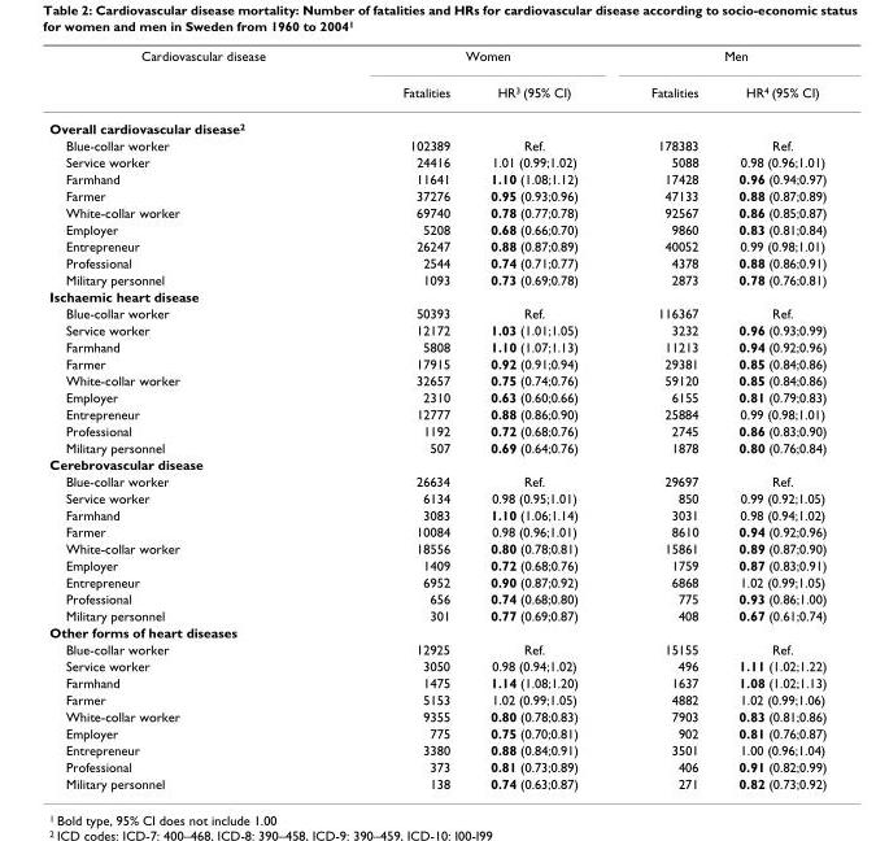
<table><thead><tr><td rowspan="2">Cardiovascular disease</td><td colspan="2">Women</td><td colspan="2">Men</td></tr><tr><td>Fatalities</td><td>HR<sup>3</sup> (95% CI)</td><td>Fatalities</td><td>HR<sup>4</sup> (95% CI)</td></tr></thead><tbody><tr><td colspan="5">Overall cardiovascular disease<sup>2</sup></td></tr><tr><td>Blue-collar worker</td><td>102389</td><td>Ref.</td><td>178383</td><td>Ref.</td></tr><tr><td>Service worker</td><td>24416</td><td>1.01 (0.99;1.02)</td><td>5088</td><td>0.98 (0.96;1.01)</td></tr><tr><td>Farmhand</td><td>11641</td><td>1.10 (1.08;1.12)</td><td>17428</td><td>0.96 (0.94;0.97)</td></tr><tr><td>Farmer</td><td>37276</td><td>0.95 (0.93;0.96)</td><td>47133</td><td>0.88 (0.87;0.89)</td></tr><tr><td>White-collar worker</td><td>69740</td><td>0.78 (0.77;0.78)</td><td>92567</td><td>0.86 (0.85;0.87)</td></tr><tr><td>Employer</td><td>5208</td><td>0.68 (0.66;0.70)</td><td>9860</td><td>0.83 (0.81;0.84)</td></tr><tr><td>Entrepreneur</td><td>26247</td><td>0.88 (0.87;0.89)</td><td>40052</td><td>0.99 (0.98;1.01)</td></tr><tr><td>Professional</td><td>2544</td><td>0.74 (0.71;0.77)</td><td>4378</td><td>0.88 (0.86;0.91)</td></tr><tr><td>Military personnel</td><td>1093</td><td>0.73 (0.69;0.78)</td><td>2873</td><td>0.78 (0.76;0.81)</td></tr><tr><td colspan="5">Ischaemic heart disease</td></tr><tr><td>Blue-collar worker</td><td>50393</td><td>Ref.</td><td>116367</td><td>Ref.</td></tr><tr><td>Service worker</td><td>12172</td><td>1.03 (1.01;1.05)</td><td>3232</td><td>0.96 (0.93;0.99)</td></tr><tr><td>Farmhand</td><td>5808</td><td>1.10 (1.07;1.13)</td><td>11213</td><td>0.94 (0.92;0.96)</td></tr><tr><td>Farmer</td><td>17915</td><td>0.92 (0.91;0.94)</td><td>29381</td><td>0.85 (0.84;0.86)</td></tr><tr><td>White-collar worker</td><td>32657</td><td>0.75 (0.74;0.76)</td><td>59120</td><td>0.85 (0.84;0.86)</td></tr><tr><td>Employer</td><td>2310</td><td>0.63 (0.60;0.66)</td><td>6155</td><td>0.81 (0.79;0.83)</td></tr><tr><td>Entrepreneur</td><td>12777</td><td>0.88 (0.86;0.90)</td><td>25884</td><td>0.99 (0.98;1.01)</td></tr><tr><td>Professional</td><td>1192</td><td>0.72 (0.68;0.76)</td><td>2745</td><td>0.86 (0.83;0.90)</td></tr><tr><td>Military personnel</td><td>507</td><td>0.69 (0.64;0.76)</td><td>1878</td><td>0.80 (0.76;0.84)</td></tr><tr><td colspan="5">Cerebrovascular disease</td></tr><tr><td>Blue-collar worker</td><td>26634</td><td>Ref.</td><td>29697</td><td>Ref.</td></tr><tr><td>Service worker</td><td>6134</td><td>0.98 (0.95;1.01)</td><td>850</td><td>0.99 (0.92;1.05)</td></tr><tr><td>Farmhand</td><td>3083</td><td>1.10 (1.06;1.14)</td><td>3031</td><td>0.98 (0.94;1.02)</td></tr><tr><td>Farmer</td><td>10084</td><td>0.98 (0.96;1.01)</td><td>8610</td><td>0.94 (0.92;0.96)</td></tr><tr><td>White-collar worker</td><td>18556</td><td>0.80 (0.78;0.81)</td><td>15861</td><td>0.89 (0.87;0.90)</td></tr><tr><td>Employer</td><td>1409</td><td>0.72 (0.68;0.76)</td><td>1759</td><td>0.87 (0.83;0.91)</td></tr><tr><td>Entrepreneur</td><td>6952</td><td>0.90 (0.87;0.92)</td><td>6868</td><td>1.02 (0.99;1.05)</td></tr><tr><td>Professional</td><td>656</td><td>0.74 (0.68;0.80)</td><td>775</td><td>0.93 (0.86;1.00)</td></tr><tr><td>Military personnel</td><td>301</td><td>0.77 (0.69;0.87)</td><td>408</td><td>0.67 (0.61;0.74)</td></tr><tr><td colspan="5">Other forms of heart diseases</td></tr><tr><td>Blue-collar worker</td><td>12925</td><td>Ref.</td><td>15155</td><td>Ref.</td></tr><tr><td>Service worker</td><td>3050</td><td>0.98 (0.94;1.02)</td><td>496</td><td>1.11 (1.02;1.22)</td></tr><tr><td>Farmhand</td><td>1475</td><td>1.14 (1.08;1.20)</td><td>1637</td><td>1.08 (1.02;1.13)</td></tr><tr><td>Farmer</td><td>5153</td><td>1.02 (0.99;1.05)</td><td>4882</td><td>1.02 (0.99;1.06)</td></tr><tr><td>White-collar worker</td><td>9355</td><td>0.80 (0.78;0.83)</td><td>7903</td><td>0.83 (0.81;0.86)</td></tr><tr><td>Employer</td><td>775</td><td>0.75 (0.70;0.81)</td><td>902</td><td>0.81 (0.76;0.87)</td></tr><tr><td>Entrepreneur</td><td>3380</td><td>0.88 (0.84;0.91)</td><td>3501</td><td>1.00 (0.96;1.04)</td></tr><tr><td>Professional</td><td>373</td><td>0.81 (0.73;0.89)</td><td>406</td><td>0.91 (0.82;0.99)</td></tr><tr><td>Military personnel</td><td>138</td><td>0.74 (0.63;0.87)</td><td>271</td><td>0.82 (0.73;0.92)</td></tr></tbody></table>